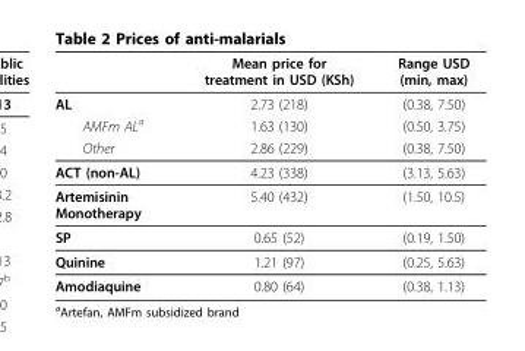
<table><thead><tr><td></td><td>Mean price for treatment in USD (KSh)</td><td>Range USD (min, max)</td></tr></thead><tbody><tr><td>AL</td><td>2.73 (218)</td><td>(0.38, 7.50)</td></tr><tr><td>AMFm AL<sup>a</sup></td><td>1.63 (130)</td><td>(0.50, 3.75)</td></tr><tr><td>Other</td><td>2.86 (229)</td><td>(0.38, 7.50)</td></tr><tr><td>ACT (non-AL)</td><td>4.23 (338)</td><td>(3.13, 5.63)</td></tr><tr><td>Artemisinin Monotherapy</td><td>5.40 (432)</td><td>(1.50, 10.5)</td></tr><tr><td>SP</td><td>0.65 (52)</td><td>(0.19, 1.50)</td></tr><tr><td>Quinine</td><td>1.21 (97)</td><td>(0.25, 5.63)</td></tr><tr><td>Amodiaquine</td><td>0.80 (64)</td><td>(0.38, 1.13)</td></tr></tbody></table>